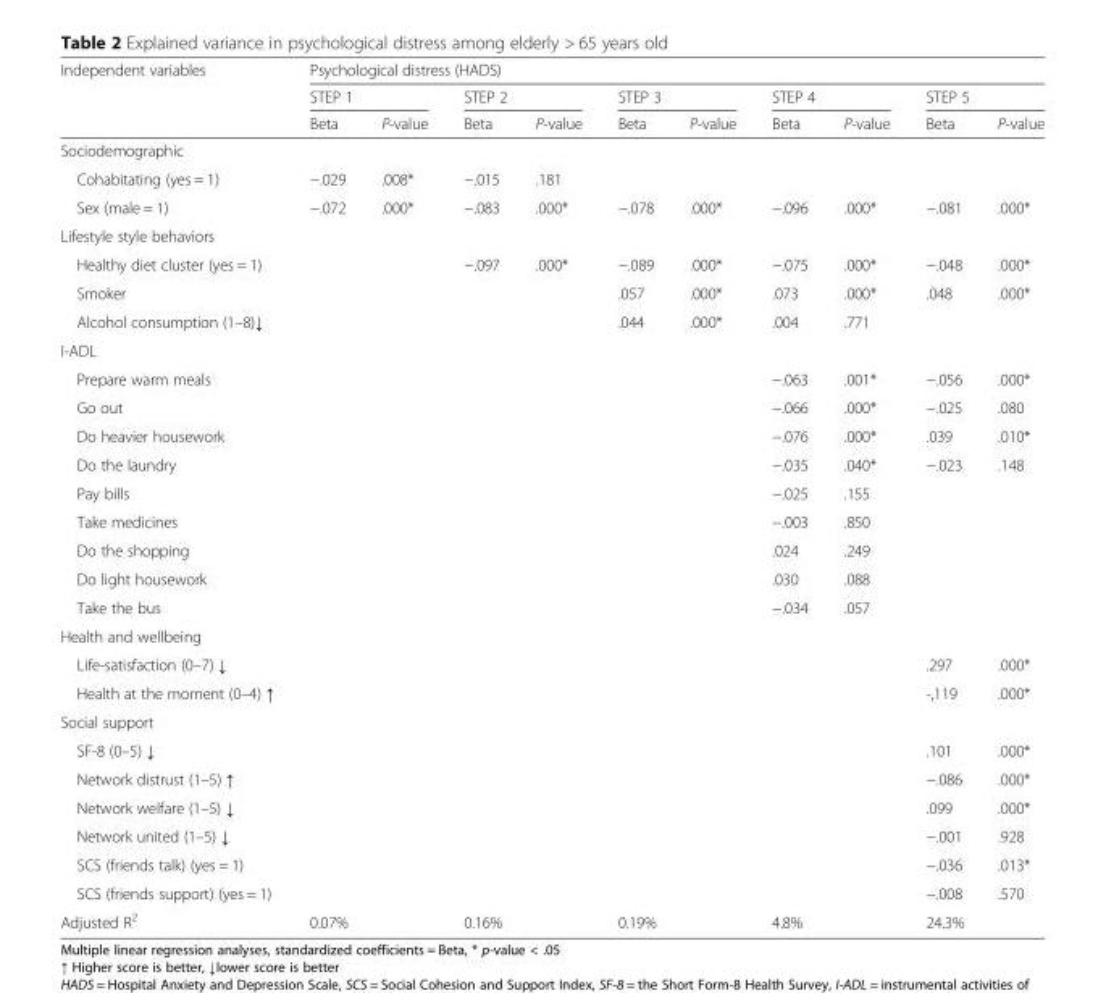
<table><thead><tr><td rowspan="3">Independent variables</td><td colspan="10">Psychological distress (HADS)</td></tr><tr><td colspan="2">STEP 1</td><td colspan="2">STEP 2</td><td colspan="2">STEP 3</td><td colspan="2">STEP 4</td><td colspan="2">STEP 5</td></tr><tr><td>Beta</td><td>P-value</td><td>Beta</td><td>P-value</td><td>Beta</td><td>P-value</td><td>Beta</td><td>P-value</td><td>Beta</td><td>P-value</td></tr></thead><tbody><tr><td colspan="11">Sociodemographic</td></tr><tr><td>Cohabitating (yes = 1)</td><td>−.029</td><td>.008*</td><td>−.015</td><td>.181</td><td></td><td></td><td></td><td></td><td></td><td></td></tr><tr><td>Sex (male = 1)</td><td>−.072</td><td>.000*</td><td>−.083</td><td>.000*</td><td>−.078</td><td>.000*</td><td>−.096</td><td>.000*</td><td>−.081</td><td>.000*</td></tr><tr><td colspan="11">Lifestyle style behaviors</td></tr><tr><td>Healthy diet cluster (yes = 1)</td><td></td><td></td><td>−.097</td><td>.000*</td><td>−.089</td><td>.000*</td><td>−.075</td><td>.000*</td><td>−.048</td><td>.000*</td></tr><tr><td>Smoker</td><td></td><td></td><td></td><td></td><td>.057</td><td>.000*</td><td>.073</td><td>.000*</td><td>.048</td><td>.000*</td></tr><tr><td>Alcohol consumption (1–8)↓</td><td></td><td></td><td></td><td></td><td>.044</td><td>.000*</td><td>.004</td><td>.771</td><td></td><td></td></tr><tr><td colspan="11">I-ADL</td></tr><tr><td>Prepare warm meals</td><td></td><td></td><td></td><td></td><td></td><td></td><td>−.063</td><td>.001*</td><td>−.056</td><td>.000*</td></tr><tr><td>Go out</td><td></td><td></td><td></td><td></td><td></td><td></td><td>−.066</td><td>.000*</td><td>−.025</td><td>.080</td></tr><tr><td>Do heavier housework</td><td></td><td></td><td></td><td></td><td></td><td></td><td>−.076</td><td>.000*</td><td>.039</td><td>.010*</td></tr><tr><td>Do the laundry</td><td></td><td></td><td></td><td></td><td></td><td></td><td>−.035</td><td>.040*</td><td>−.023</td><td>.148</td></tr><tr><td>Pay bills</td><td></td><td></td><td></td><td></td><td></td><td></td><td>−.025</td><td>.155</td><td></td><td></td></tr><tr><td>Take medicines</td><td></td><td></td><td></td><td></td><td></td><td></td><td>−.003</td><td>.850</td><td></td><td></td></tr><tr><td>Do the shopping</td><td></td><td></td><td></td><td></td><td></td><td></td><td>.024</td><td>.249</td><td></td><td></td></tr><tr><td>Do light housework</td><td></td><td></td><td></td><td></td><td></td><td></td><td>.030</td><td>.088</td><td></td><td></td></tr><tr><td>Take the bus</td><td></td><td></td><td></td><td></td><td></td><td></td><td>−.034</td><td>.057</td><td></td><td></td></tr><tr><td colspan="11">Health and wellbeing</td></tr><tr><td>Life-satisfaction (0–7) ↓</td><td></td><td></td><td></td><td></td><td></td><td></td><td></td><td></td><td>.297</td><td>.000*</td></tr><tr><td>Health at the moment (0–4) ↑</td><td></td><td></td><td></td><td></td><td></td><td></td><td></td><td></td><td>-,119</td><td>.000*</td></tr><tr><td colspan="11">Social support</td></tr><tr><td>SF-8 (0–5) ↓</td><td></td><td></td><td></td><td></td><td></td><td></td><td></td><td></td><td>.101</td><td>.000*</td></tr><tr><td>Network distrust (1–5) ↑</td><td></td><td></td><td></td><td></td><td></td><td></td><td></td><td></td><td>−.086</td><td>.000*</td></tr><tr><td>Network welfare (1–5) ↓</td><td></td><td></td><td></td><td></td><td></td><td></td><td></td><td></td><td>.099</td><td>.000*</td></tr><tr><td>Network united (1–5) ↓</td><td></td><td></td><td></td><td></td><td></td><td></td><td></td><td></td><td>−.001</td><td>.928</td></tr><tr><td>SCS (friends talk) (yes = 1)</td><td></td><td></td><td></td><td></td><td></td><td></td><td></td><td></td><td>−.036</td><td>.013*</td></tr><tr><td>SCS (friends support) (yes = 1)</td><td></td><td></td><td></td><td></td><td></td><td></td><td></td><td></td><td>−.008</td><td>.570</td></tr><tr><td>Adjusted R<sup>2</sup></td><td colspan="2">0.07%</td><td colspan="2">0.16%</td><td colspan="2">0.19%</td><td colspan="2">4.8%</td><td colspan="2">24.3%</td></tr></tbody></table>